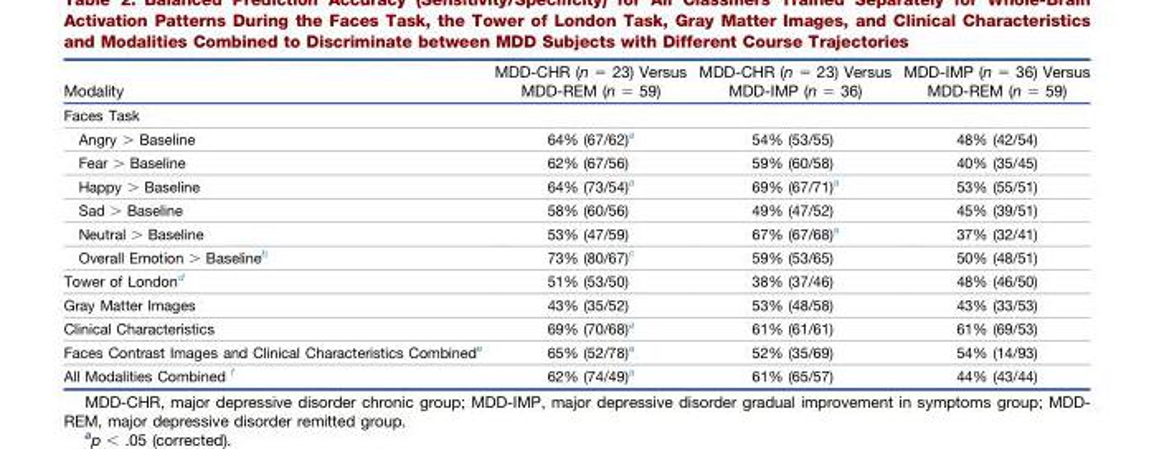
<table><thead><tr><td rowspan="2">Modality</td><td rowspan="2">MDD-CHR (n = 23) Versus MDD-REM (n = 59)</td><td rowspan="2">MDD-CHR (n = 23) Versus MDD-IMP (n = 36)</td><td rowspan="2">MDD-IMP (n = 36) Versus MDD-REM (n = 59)</td></tr><tr></tr></thead><tbody><tr><td colspan="4">Faces Task</td></tr><tr><td>Angry &gt; Baseline</td><td>64% (67/62)<sup>a</sup></td><td>54% (53/55)</td><td>48% (42/54)</td></tr><tr><td>Fear &gt; Baseline</td><td>62% (67/56)</td><td>59% (60/58)</td><td>40% (35/45)</td></tr><tr><td>Happy &gt; Baseline</td><td>64% (73/54)<sup>a</sup></td><td>69% (67/71)<sup>a</sup></td><td>53% (55/51)</td></tr><tr><td>Sad &gt; Baseline</td><td>58% (60/56)</td><td>49% (47/52)</td><td>45% (39/51)</td></tr><tr><td>Neutral &gt; Baseline</td><td>53% (47/59)</td><td>67% (67/68)<sup>a</sup></td><td>37% (32/41)</td></tr><tr><td>Overall Emotion &gt; Baseline<sup>b</sup></td><td>73% (80/67)<sup>c</sup></td><td>59% (53/65)</td><td>50% (48/51)</td></tr><tr><td>Tower of London<sup>d</sup></td><td>51% (53/50)</td><td>38% (37/46)</td><td>48% (46/50)</td></tr><tr><td>Gray Matter Images</td><td>43% (35/52)</td><td>53% (48/58)</td><td>43% (33/53)</td></tr><tr><td>Clinical Characteristics</td><td>69% (70/68)<sup>a</sup></td><td>61% (61/61)</td><td>61% (69/53)</td></tr><tr><td>Faces Contrast Images and Clinical Characteristics Combined<sup>e</sup></td><td>65% (52/78)<sup>a</sup></td><td>52% (35/69)</td><td>54% (14/93)</td></tr><tr><td>All Modalities Combined f</td><td>62% (74/49)<sup>a</sup></td><td>61% (65/57)</td><td>44% (43/44)</td></tr></tbody></table>